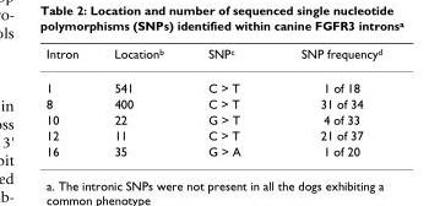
<table><thead><tr><td>Intron</td><td>Location<sup>b</sup></td><td>SNP<sup>c</sup></td><td>SNP frequency<sup>d</sup></td></tr></thead><tbody><tr><td>1</td><td>541</td><td>C &gt; T</td><td>1 of 18</td></tr><tr><td>8</td><td>400</td><td>C &gt; T</td><td>31 of 34</td></tr><tr><td>10</td><td>22</td><td>G &gt; T</td><td>4 of 33</td></tr><tr><td>12</td><td>11</td><td>C &gt; T</td><td>21 of 37</td></tr><tr><td>16</td><td>35</td><td>G &gt; A</td><td>1 of 20</td></tr></tbody></table>